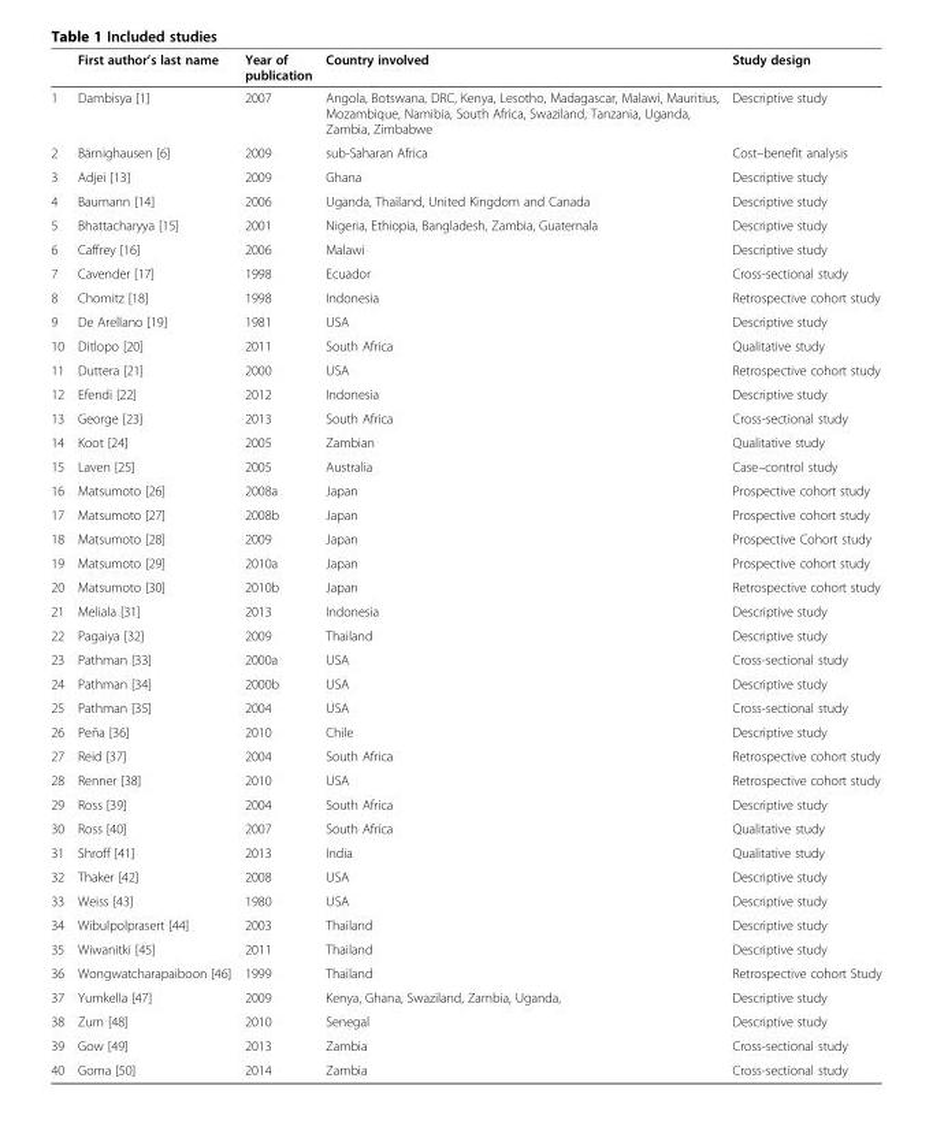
<table><thead><tr><td></td><td>First author’s last name</td><td>Year of publication</td><td>Country involved</td><td>Study design</td></tr></thead><tbody><tr><td>1</td><td>Dambisya [1]</td><td>2007</td><td>Angola, Botswana, DRC, Kenya, Lesotho, Madagascar, Malawi, Mauritius, Mozambique, Namibia, South Africa, Swaziland, Tanzania, Uganda, Zambia, Zimbabwe</td><td>Descriptive study</td></tr><tr><td>2</td><td>Bärnighausen [6]</td><td>2009</td><td>sub-Saharan Africa</td><td>Cost–benefit analysis</td></tr><tr><td>3</td><td>Adjei [13]</td><td>2009</td><td>Ghana</td><td>Descriptive study</td></tr><tr><td>4</td><td>Baumann [14]</td><td>2006</td><td>Uganda, Thailand, United Kingdom and Canada</td><td>Descriptive study</td></tr><tr><td>5</td><td>Bhattacharyya [15]</td><td>2001</td><td>Nigeria, Ethiopia, Bangladesh, Zambia, Guatemala</td><td>Descriptive study</td></tr><tr><td>6</td><td>Caffrey [16]</td><td>2006</td><td>Malawi</td><td>Descriptive study</td></tr><tr><td>7</td><td>Cavender [17]</td><td>1998</td><td>Ecuador</td><td>Cross-sectional study</td></tr><tr><td>8</td><td>Chomitz [18]</td><td>1998</td><td>Indonesia</td><td>Retrospective cohort study</td></tr><tr><td>9</td><td>De Arellano [19]</td><td>1981</td><td>USA</td><td>Descriptive study</td></tr><tr><td>10</td><td>Ditlopo [20]</td><td>2011</td><td>South Africa</td><td>Qualitative study</td></tr><tr><td>11</td><td>Duttera [21]</td><td>2000</td><td>USA</td><td>Retrospective cohort study</td></tr><tr><td>12</td><td>Efendi [22]</td><td>2012</td><td>Indonesia</td><td>Descriptive study</td></tr><tr><td>13</td><td>George [23]</td><td>2013</td><td>South Africa</td><td>Cross-sectional study</td></tr><tr><td>14</td><td>Koot [24]</td><td>2005</td><td>Zambian</td><td>Qualitative study</td></tr><tr><td>15</td><td>Laven [25]</td><td>2005</td><td>Australia</td><td>Case–control study</td></tr><tr><td>16</td><td>Matsumoto [26]</td><td>2008a</td><td>Japan</td><td>Prospective cohort study</td></tr><tr><td>17</td><td>Matsumoto [27]</td><td>2008b</td><td>Japan</td><td>Prospective cohort study</td></tr><tr><td>18</td><td>Matsumoto [28]</td><td>2009</td><td>Japan</td><td>Prospective Cohort study</td></tr><tr><td>19</td><td>Matsumoto [29]</td><td>2010a</td><td>Japan</td><td>Prospective cohort study</td></tr><tr><td>20</td><td>Matsumoto [30]</td><td>2010b</td><td>Japan</td><td>Retrospective cohort study</td></tr><tr><td>21</td><td>Meliala [31]</td><td>2013</td><td>Indonesia</td><td>Descriptive study</td></tr><tr><td>22</td><td>Pagaiya [32]</td><td>2009</td><td>Thailand</td><td>Descriptive study</td></tr><tr><td>23</td><td>Pathman [33]</td><td>2000a</td><td>USA</td><td>Cross-sectional study</td></tr><tr><td>24</td><td>Pathman [34]</td><td>2000b</td><td>USA</td><td>Descriptive study</td></tr><tr><td>25</td><td>Pathman [35]</td><td>2004</td><td>USA</td><td>Cross-sectional study</td></tr><tr><td>26</td><td>Peña [36]</td><td>2010</td><td>Chile</td><td>Descriptive study</td></tr><tr><td>27</td><td>Reid [37]</td><td>2004</td><td>South Africa</td><td>Retrospective cohort study</td></tr><tr><td>28</td><td>Renner [38]</td><td>2010</td><td>USA</td><td>Retrospective cohort study</td></tr><tr><td>29</td><td>Ross [39]</td><td>2004</td><td>South Africa</td><td>Descriptive study</td></tr><tr><td>30</td><td>Ross [40]</td><td>2007</td><td>South Africa</td><td>Qualitative study</td></tr><tr><td>31</td><td>Shroff [41]</td><td>2013</td><td>India</td><td>Qualitative study</td></tr><tr><td>32</td><td>Thaker [42]</td><td>2008</td><td>USA</td><td>Descriptive study</td></tr><tr><td>33</td><td>Weiss [43]</td><td>1980</td><td>USA</td><td>Descriptive study</td></tr><tr><td>34</td><td>Wibulpolprasert [44]</td><td>2003</td><td>Thailand</td><td>Descriptive study</td></tr><tr><td>35</td><td>Wiwanitki [45]</td><td>2011</td><td>Thailand</td><td>Descriptive study</td></tr><tr><td>36</td><td>Wongwatcharapaiboon [46]</td><td>1999</td><td>Thailand</td><td>Retrospective cohort Study</td></tr><tr><td>37</td><td>Yumkella [47]</td><td>2009</td><td>Kenya, Ghana, Swaziland, Zambia, Uganda,</td><td>Descriptive study</td></tr><tr><td>38</td><td>Zurn [48]</td><td>2010</td><td>Senegal</td><td>Descriptive study</td></tr><tr><td>39</td><td>Gow [49]</td><td>2013</td><td>Zambia</td><td>Cross-sectional study</td></tr><tr><td>40</td><td>Goma [50]</td><td>2014</td><td>Zambia</td><td>Cross-sectional study</td></tr></tbody></table>